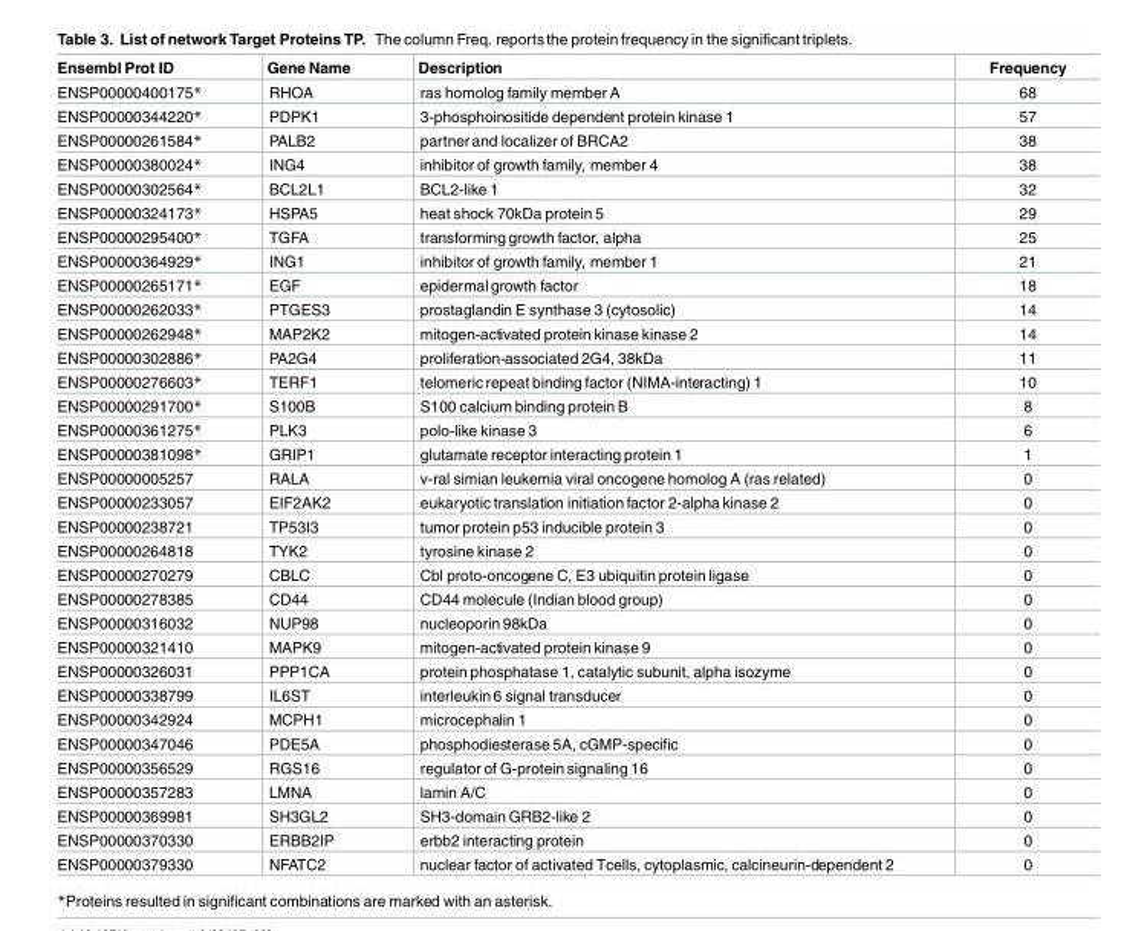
<table><thead><tr><td>Ensembl Prot ID</td><td>Gene Name</td><td>Description</td><td>Frequency</td></tr></thead><tbody><tr><td>ENSP00000400175*</td><td>RHOA</td><td>ras homolog family member A</td><td>68</td></tr><tr><td>ENSP00000344220*</td><td>PDPK1</td><td>3-phosphoinositide dependent protein kinase 1</td><td>57</td></tr><tr><td>ENSP00000261584*</td><td>PALB2</td><td>partnerand localizer of BRCA2</td><td>38</td></tr><tr><td>ENSP00000380024*</td><td>ING4</td><td>inhibitor of growth family, member 4</td><td>38</td></tr><tr><td>ENSP00000302564*</td><td>BCL2L1</td><td>BCL2-like 1</td><td>32</td></tr><tr><td>ENSP00000324173*</td><td>HSPA5</td><td>heat shock 70kDa protein 5</td><td>29</td></tr><tr><td>ENSP00000295400*</td><td>TGFA</td><td>transforming growth factor, alpha</td><td>25</td></tr><tr><td>ENSP00000364929*</td><td>ING1</td><td>inhibitor of growth family, member 1</td><td>21</td></tr><tr><td>ENSP00000265171*</td><td>EGF</td><td>epidermalgrowth factor</td><td>18</td></tr><tr><td>ENSP00000262033*</td><td>PTGES3</td><td>prostaglandin E synthase 3 (cytosolic)</td><td>14</td></tr><tr><td>ENSP00000262948*</td><td>MAP2K2</td><td>mitogen-activated protein kinase kinase 2</td><td>14</td></tr><tr><td>ENSP00000302886*</td><td>PA2G4</td><td>proliferation-associated 2G4, 38kDa</td><td>11</td></tr><tr><td>ENSP00000276603*</td><td>TERF1</td><td>telomeric repeat binding factor (NIMA-interacting) 1</td><td>10</td></tr><tr><td>ENSP00000291700*</td><td>S100B</td><td>S100 calcium binding protein B</td><td>8</td></tr><tr><td>ENSP00000361275*</td><td>PLK3</td><td>polo-like kinase 3</td><td>6</td></tr><tr><td>ENSP00000381098*</td><td>GRIP1</td><td>glutamate receptor interacting protein 1</td><td>1</td></tr><tr><td>ENSP00000005257</td><td>RALA</td><td>v-ral simian leukemia viral oncogene homolog A (ras related)</td><td>0</td></tr><tr><td>ENSP00000233057</td><td>EIF2AK2</td><td>eukaryotic translation initiation factor 2-alpha kinase 2</td><td>0</td></tr><tr><td>ENSP00000238721</td><td>TP53I3</td><td>tumor protein p53 inducible protein 3</td><td>0</td></tr><tr><td>ENSP00000264818</td><td>TYK2</td><td>tyrosine kinase 2</td><td>0</td></tr><tr><td>ENSP00000270279</td><td>CBLC</td><td>Cbl proto-oncogene C, E3 ubiquitin protein ligase</td><td>0</td></tr><tr><td>ENSP00000278385</td><td>CD44</td><td>CD44 molecule (Indian blood group)</td><td>0</td></tr><tr><td>ENSP00000316032</td><td>NUP98</td><td>nucleoporin 98kDa</td><td>0</td></tr><tr><td>ENSP00000321410</td><td>MAPK9</td><td>mitogen-activated protein kinase 9</td><td>0</td></tr><tr><td>ENSP00000326031</td><td>PPP1CA</td><td>protein phosphatase 1, catalytic subunit, alpha isozyme</td><td>0</td></tr><tr><td>ENSP00000338799</td><td>IL6ST</td><td>interleukin 6 signal transducer</td><td>0</td></tr><tr><td>ENSP00000342924</td><td>MCPH1</td><td>microcephalin 1</td><td>0</td></tr><tr><td>ENSP00000347046</td><td>PDE5A</td><td>phosphodiesterase 5A, cGMP-specific</td><td>0</td></tr><tr><td>ENSP00000356529</td><td>RGS16</td><td>regulator of G-protein signaling 16</td><td>0</td></tr><tr><td>ENSP00000357283</td><td>LMNA</td><td>lamin A/C</td><td>0</td></tr><tr><td>ENSP00000369981</td><td>SH3GL2</td><td>SH3-domain GRB2-like 2</td><td>0</td></tr><tr><td>ENSP00000370330</td><td>ERBB2IP</td><td>erbb2 interacting protein</td><td>0</td></tr><tr><td>ENSP00000379330</td><td>NFATC2</td><td>nuclear factor of activated Tcells, cytoplasmic, calcineurin-dependent 2</td><td>0</td></tr></tbody></table>